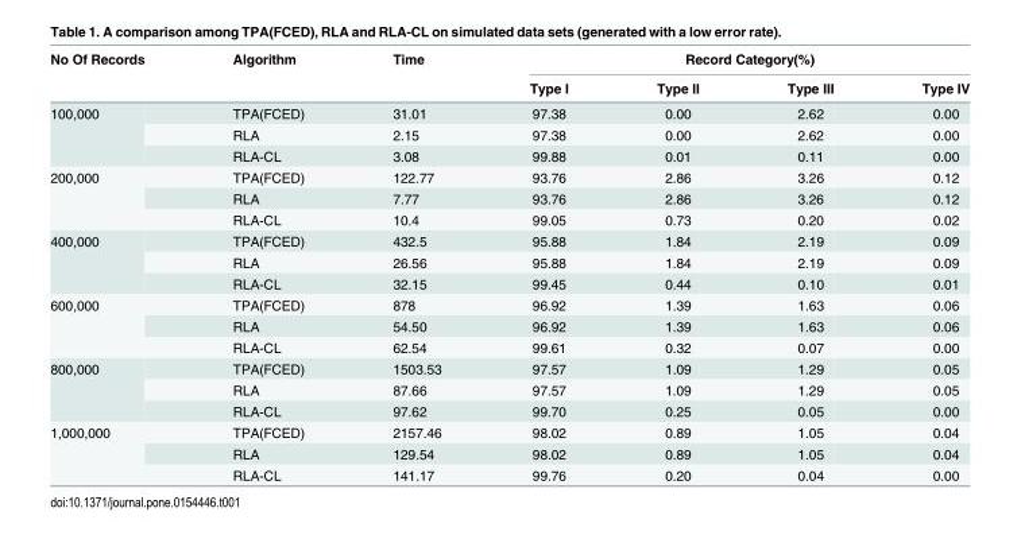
<table><thead><tr><td rowspan="2">No Of Records</td><td rowspan="2">Algorithm</td><td rowspan="2">Time</td><td colspan="4">Record Category(%)</td></tr><tr><td>Type I</td><td>Type II</td><td>Type III</td><td>Type IV</td></tr></thead><tbody><tr><td rowspan="3">100,000</td><td>TPA(FCED)</td><td>31.01</td><td>97.38</td><td>0.00</td><td>2.62</td><td>0.00</td></tr><tr><td>RLA</td><td>2.15</td><td>97.38</td><td>0.00</td><td>2.62</td><td>0.00</td></tr><tr><td>RLA-CL</td><td>3.08</td><td>99.88</td><td>0.01</td><td>0.11</td><td>0.00</td></tr><tr><td rowspan="3">200,000</td><td>TPA(FCED)</td><td>122.77</td><td>93.76</td><td>2.86</td><td>3.26</td><td>0.12</td></tr><tr><td>RLA</td><td>7.77</td><td>93.76</td><td>2.86</td><td>3.26</td><td>0.12</td></tr><tr><td>RLA-CL</td><td>10.4</td><td>99.05</td><td>0.73</td><td>0.20</td><td>0.02</td></tr><tr><td rowspan="3">400,000</td><td>TPA(FCED)</td><td>432.5</td><td>95.88</td><td>1.84</td><td>2.19</td><td>0.09</td></tr><tr><td>RLA</td><td>26.56</td><td>95.88</td><td>1.84</td><td>2.19</td><td>0.09</td></tr><tr><td>RLA-CL</td><td>32.15</td><td>99.45</td><td>0.44</td><td>0.10</td><td>0.01</td></tr><tr><td rowspan="3">600,000</td><td>TPA(FCED)</td><td>878</td><td>96.92</td><td>1.39</td><td>1.63</td><td>0.06</td></tr><tr><td>RLA</td><td>54.50</td><td>96.92</td><td>1.39</td><td>1.63</td><td>0.06</td></tr><tr><td>RLA-CL</td><td>62.54</td><td>99.61</td><td>0.32</td><td>0.07</td><td>0.00</td></tr><tr><td rowspan="3">800,000</td><td>TPA(FCED)</td><td>1503.53</td><td>97.57</td><td>1.09</td><td>1.29</td><td>0.05</td></tr><tr><td>RLA</td><td>87.66</td><td>97.57</td><td>1.09</td><td>1.29</td><td>0.05</td></tr><tr><td>RLA-CL</td><td>97.62</td><td>99.70</td><td>0.25</td><td>0.05</td><td>0.00</td></tr><tr><td rowspan="3">1,000,000</td><td>TPA(FCED)</td><td>2157.46</td><td>98.02</td><td>0.89</td><td>1.05</td><td>0.04</td></tr><tr><td>RLA</td><td>129.54</td><td>98.02</td><td>0.89</td><td>1.05</td><td>0.04</td></tr><tr><td>RLA-CL</td><td>141.17</td><td>99.76</td><td>0.20</td><td>0.04</td><td>0.00</td></tr></tbody></table>